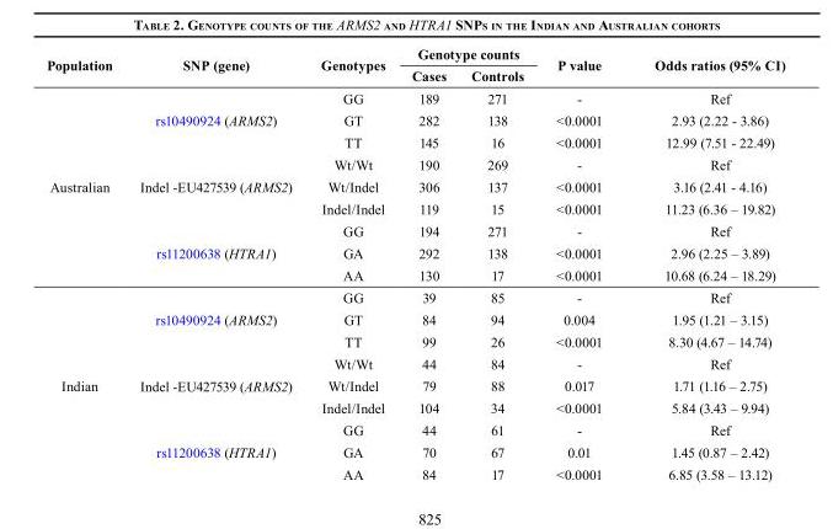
<table><thead><tr><td rowspan="2">Population</td><td rowspan="2">SNP (gene)</td><td rowspan="2">Genotypes</td><td colspan="2">Genotype counts</td><td rowspan="2">P value</td><td rowspan="2">Odds ratios (95% CI)</td></tr><tr><td>Cases</td><td>Controls</td></tr></thead><tbody><tr><td rowspan="9">Australian</td><td rowspan="3">rs10490924 (ARMS2)</td><td>GG</td><td>189</td><td>271</td><td>-</td><td>Ref</td></tr><tr><td>GT</td><td>282</td><td>138</td><td>&lt;0.0001</td><td>2.93 (2.22 - 3.86)</td></tr><tr><td>TT</td><td>145</td><td>16</td><td>&lt;0.0001</td><td>12.99 (7.51 - 22.49)</td></tr><tr><td rowspan="3">Indel -EU427539 (ARMS2)</td><td>Wt/Wt</td><td>190</td><td>269</td><td>-</td><td>Ref</td></tr><tr><td>Wt/Indel</td><td>306</td><td>137</td><td>&lt;0.0001</td><td>3.16 (2.41 - 4.16)</td></tr><tr><td>Indel/Indel</td><td>119</td><td>15</td><td>&lt;0.0001</td><td>11.23 (6.36 – 19.82)</td></tr><tr><td rowspan="3">rs11200638 (HTRA1)</td><td>GG</td><td>194</td><td>271</td><td>-</td><td>Ref</td></tr><tr><td>GA</td><td>292</td><td>138</td><td>&lt;0.0001</td><td>2.96 (2.25 – 3.89)</td></tr><tr><td>AA</td><td>130</td><td>17</td><td>&lt;0.0001</td><td>10.68 (6.24 – 18.29)</td></tr><tr><td rowspan="9">Indian</td><td rowspan="3">rs10490924 (ARMS2)</td><td>GG</td><td>39</td><td>85</td><td>-</td><td>Ref</td></tr><tr><td>GT</td><td>84</td><td>94</td><td>0.004</td><td>1.95 (1.21 – 3.15)</td></tr><tr><td>TT</td><td>99</td><td>26</td><td>&lt;0.0001</td><td>8.30 (4.67 – 14.74)</td></tr><tr><td rowspan="3">Indel -EU427539 (ARMS2)</td><td>Wt/Wt</td><td>44</td><td>84</td><td>-</td><td>Ref</td></tr><tr><td>Wt/Indel</td><td>79</td><td>88</td><td>0.017</td><td>1.71 (1.16 – 2.75)</td></tr><tr><td>Indel/Indel</td><td>104</td><td>34</td><td>&lt;0.0001</td><td>5.84 (3.43 – 9.94)</td></tr><tr><td rowspan="3">rs11200638 (HTRA1)</td><td>GG</td><td>44</td><td>61</td><td>-</td><td>Ref</td></tr><tr><td>GA</td><td>70</td><td>67</td><td>0.01</td><td>1.45 (0.87 – 2.42)</td></tr><tr><td>AA</td><td>84</td><td>17</td><td>&lt;0.0001</td><td>6.85 (3.58 – 13.12)</td></tr></tbody></table>